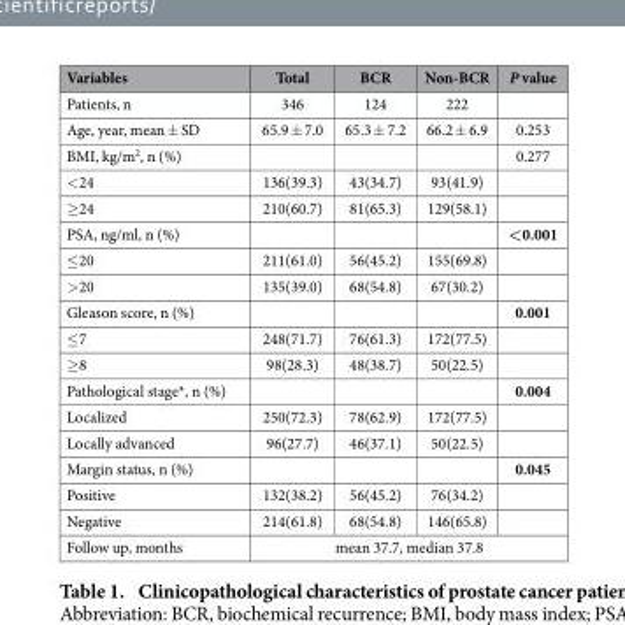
<table><thead><tr><td>Variables</td><td>Total</td><td>BCR</td><td>Non-BCR</td><td>P value</td></tr></thead><tbody><tr><td>Patients, n</td><td>346</td><td>124</td><td>222</td><td></td></tr><tr><td>Age, year, mean ± SD</td><td>65.9 ± 7.0</td><td>65.3 ± 7.2</td><td>66.2 ± 6.9</td><td>0.253</td></tr><tr><td>BMI, kg/m<sup>2</sup>, n (%)</td><td></td><td></td><td></td><td>0.277</td></tr><tr><td>&lt; 24</td><td>136(39.3)</td><td>43(34.7)</td><td>93(41.9)</td><td></td></tr><tr><td>≥ 24</td><td>210(60.7)</td><td>81(65.3)</td><td>129(58.1)</td><td></td></tr><tr><td>PSA, ng/ml, n (%)</td><td></td><td></td><td></td><td>&lt;0.001</td></tr><tr><td>≤ 20</td><td>211(61.0)</td><td>56(45.2)</td><td>155(69.8)</td><td></td></tr><tr><td>&gt; 20</td><td>135(39.0)</td><td>68(54.8)</td><td>67(30.2)</td><td></td></tr><tr><td>Gleason score, n (%)</td><td></td><td></td><td></td><td>0.001</td></tr><tr><td>≤ 7</td><td>248(71.7)</td><td>76(61.3)</td><td>172(77.5)</td><td></td></tr><tr><td>≥ 8</td><td>98(28.3)</td><td>48(38.7)</td><td>50(22.5)</td><td></td></tr><tr><td>Pathological stage*, n (%)</td><td></td><td></td><td></td><td>0.004</td></tr><tr><td>Localized</td><td>250(72.3)</td><td>78(62.9)</td><td>172(77.5)</td><td></td></tr><tr><td>Locally advanced</td><td>96(27.7)</td><td>46(37.1)</td><td>50(22.5)</td><td></td></tr><tr><td>Margin status, n (%)</td><td></td><td></td><td></td><td>0.045</td></tr><tr><td>Positive</td><td>132(38.2)</td><td>56(45.2)</td><td>76(34.2)</td><td></td></tr><tr><td>Negative</td><td>214(61.8)</td><td>68(54.8)</td><td>146(65.8)</td><td></td></tr><tr><td>Follow up, months</td><td colspan="4">mean 37.7, median 37.8</td></tr></tbody></table>